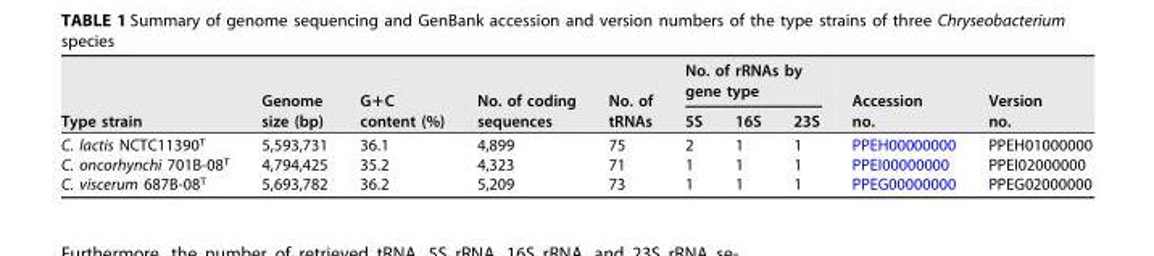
<table><thead><tr><td rowspan="2">Type strain</td><td rowspan="2">Genome size (bp)</td><td rowspan="2">G+C content (%)</td><td rowspan="2">No. of coding sequences</td><td rowspan="2">No. of tRNAs</td><td colspan="3">No. of rRNAs by gene type</td><td rowspan="2">Accession no.</td><td rowspan="2">Version no.</td></tr><tr><td>5S</td><td>16S</td><td>23S</td></tr></thead><tbody><tr><td>C. lactis NCTC11390<sup>T</sup></td><td>5,593,731</td><td>36.1</td><td>4,899</td><td>75</td><td>2</td><td>1</td><td>1</td><td>PPEH00000000</td><td>PPEH01000000</td></tr><tr><td>C. oncorhynchi 701B-08<sup>T</sup></td><td>4,794,425</td><td>35.2</td><td>4,323</td><td>71</td><td>1</td><td>1</td><td>1</td><td>PPEI00000000</td><td>PPEI02000000</td></tr><tr><td>C. viscerum 687B-08<sup>T</sup></td><td>5,693,782</td><td>36.2</td><td>5,209</td><td>73</td><td>1</td><td>1</td><td>1</td><td>PPEG00000000</td><td>PPEG02000000</td></tr></tbody></table>